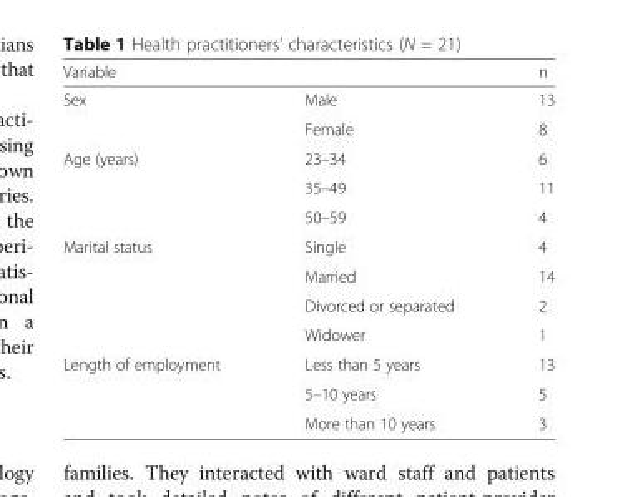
<table><thead><tr><td>Variable</td><td></td><td>n</td></tr></thead><tbody><tr><td rowspan="2">Sex</td><td>Male</td><td>13</td></tr><tr><td>Female</td><td>8</td></tr><tr><td rowspan="3">Age (years)</td><td>23–34</td><td>6</td></tr><tr><td>35–49</td><td>11</td></tr><tr><td>50–59</td><td>4</td></tr><tr><td rowspan="4">Marital status</td><td>Single</td><td>4</td></tr><tr><td>Married</td><td>14</td></tr><tr><td>Divorced or separated</td><td>2</td></tr><tr><td>Widower</td><td>1</td></tr><tr><td rowspan="3">Length of employment</td><td>Less than 5 years</td><td>13</td></tr><tr><td>5–10 years</td><td>5</td></tr><tr><td>More than 10 years</td><td>3</td></tr></tbody></table>